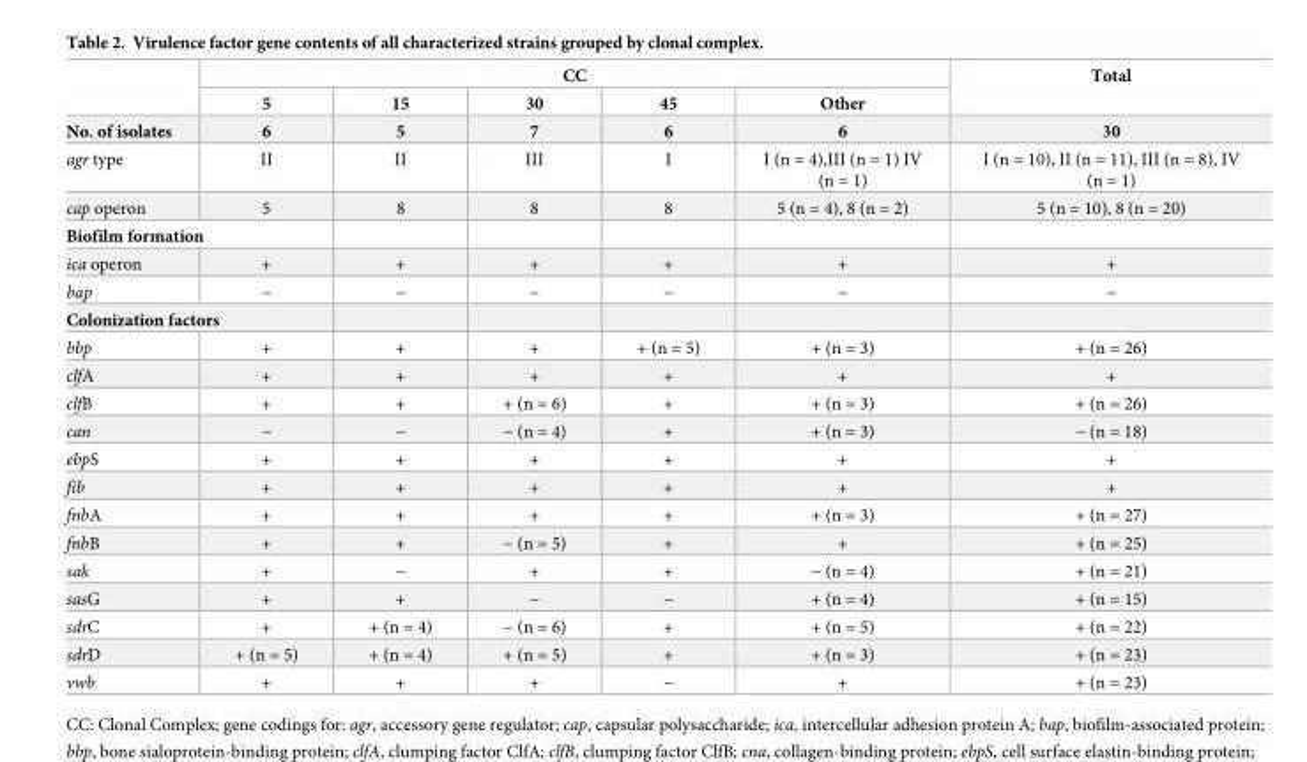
<table><thead><tr><td rowspan="2"></td><td colspan="5">CC</td><td rowspan="2">Total</td></tr><tr><td>5</td><td>15</td><td>30</td><td>45</td><td>Other</td></tr></thead><tbody><tr><td>No. of isolates</td><td>6</td><td>5</td><td>7</td><td>6</td><td>6</td><td>30</td></tr><tr><td>agr type</td><td>II</td><td>II</td><td>III</td><td>I</td><td>I (n = 4),III (n = 1) IV (n = 1)</td><td>I (n = 10), II (n = 11), III (n = 8), IV (n = 1)</td></tr><tr><td>cap operon</td><td>5</td><td>8</td><td>8</td><td>8</td><td>5 (n = 4), 8 (n = 2)</td><td>5 (n = 10), 8 (n = 20)</td></tr><tr><td colspan="7">Biofilm formation</td></tr><tr><td>ica operon</td><td>+</td><td>+</td><td>+</td><td>+</td><td>+</td><td>+</td></tr><tr><td>bap</td><td>−</td><td>−</td><td>−</td><td>−</td><td>−</td><td>−</td></tr><tr><td colspan="7">Colonization factors</td></tr><tr><td>bbp</td><td>+</td><td>+</td><td>+</td><td>+ (n = 5)</td><td>+ (n = 3)</td><td>+ (n = 26)</td></tr><tr><td>clfA</td><td>+</td><td>+</td><td>+</td><td>+</td><td>+</td><td>+</td></tr><tr><td>clfB</td><td>+</td><td>+</td><td>+ (n = 6)</td><td>+</td><td>+ (n = 3)</td><td>+ (n = 26)</td></tr><tr><td>can</td><td>−</td><td>−</td><td>− (n = 4)</td><td>+</td><td>+ (n = 3)</td><td>− (n = 18)</td></tr><tr><td>ebpS</td><td>+</td><td>+</td><td>+</td><td>+</td><td>+</td><td>+</td></tr><tr><td>fib</td><td>+</td><td>+</td><td>+</td><td>+</td><td>+</td><td>+</td></tr><tr><td>fnbA</td><td>+</td><td>+</td><td>+</td><td>+</td><td>+ (n = 3)</td><td>+ (n = 27)</td></tr><tr><td>fnbB</td><td>+</td><td>+</td><td>− (n = 5)</td><td>+</td><td>+</td><td>+ (n = 25)</td></tr><tr><td>sak</td><td>+</td><td>−</td><td>+</td><td>+</td><td>− (n = 4)</td><td>+ (n = 21)</td></tr><tr><td>sasG</td><td>+</td><td>+</td><td>−</td><td>−</td><td>+ (n = 4)</td><td>+ (n = 15)</td></tr><tr><td>sdrC</td><td>+</td><td>+ (n = 4)</td><td>− (n = 6)</td><td>+</td><td>+ (n = 5)</td><td>+ (n = 22)</td></tr><tr><td>sdrD</td><td>+ (n = 5)</td><td>+ (n = 4)</td><td>+ (n = 5)</td><td>+</td><td>+ (n = 3)</td><td>+ (n = 23)</td></tr><tr><td>vwb</td><td>+</td><td>+</td><td>+</td><td>−</td><td>+</td><td>+ (n = 23)</td></tr></tbody></table>